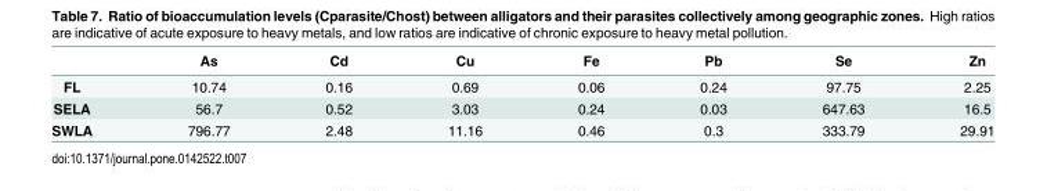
<table><thead><tr><td></td><td>As</td><td>Cd</td><td>Cu</td><td>Fe</td><td>Pb</td><td>Se</td><td>Zn</td></tr></thead><tbody><tr><td>FL</td><td>10.74</td><td>0.16</td><td>0.69</td><td>0.06</td><td>0.24</td><td>97.75</td><td>2.25</td></tr><tr><td>SELA</td><td>56.7</td><td>0.52</td><td>3.03</td><td>0.24</td><td>0.03</td><td>647.63</td><td>16.5</td></tr><tr><td>SWLA</td><td>796.77</td><td>2.48</td><td>11.16</td><td>0.46</td><td>0.3</td><td>333.79</td><td>29.91</td></tr></tbody></table>